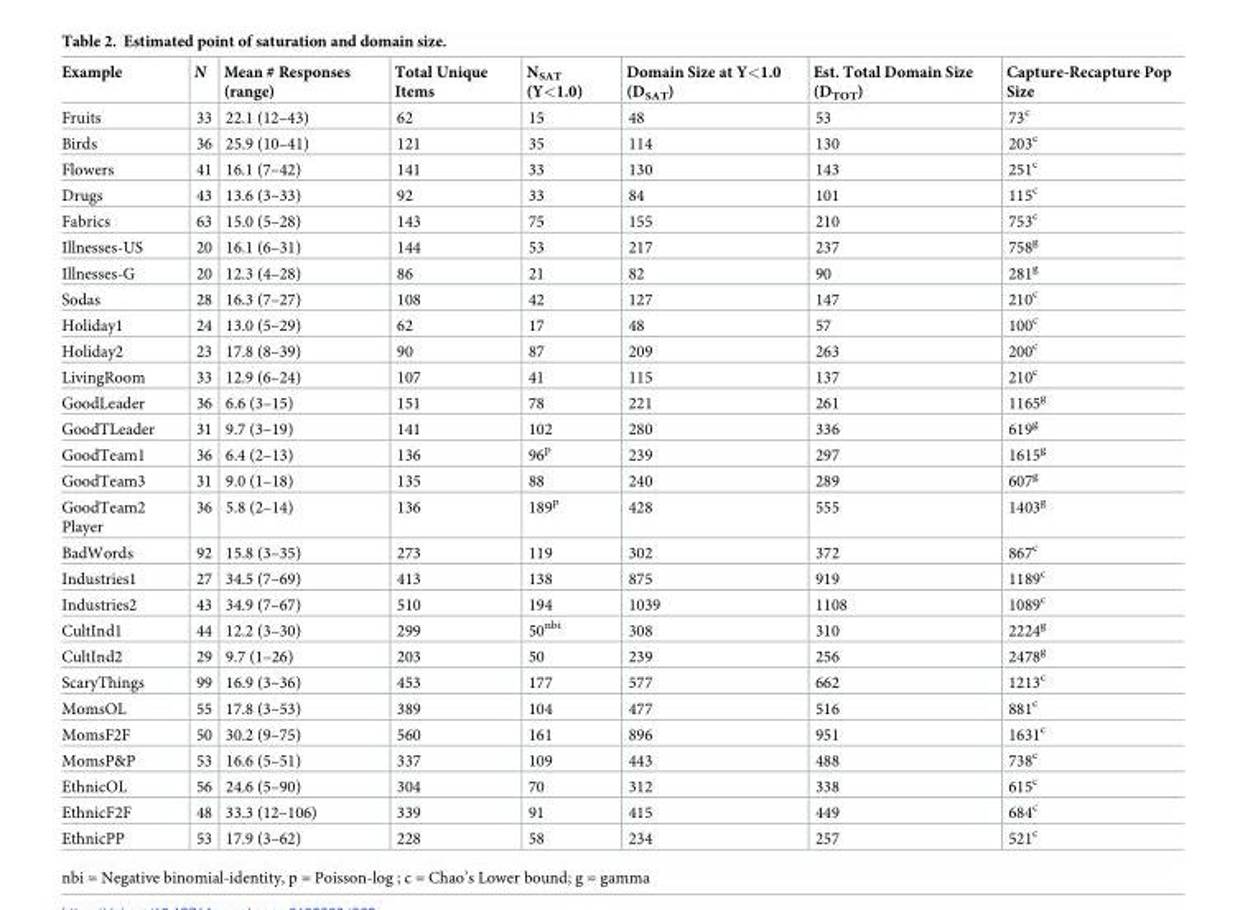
<table><thead><tr><td>Example</td><td>N</td><td>Mean # Responses (range)</td><td>Total Unique Items</td><td>N<sub>SAT</sub> (Y&lt;1.0)</td><td>Domain Size at Y&lt;1.0 (D<sub>SAT</sub>)</td><td>Est. Total Domain Size (D<sub>TOT</sub>)</td><td>Capture-Recapture Pop Size</td></tr></thead><tbody><tr><td>Fruits</td><td>33</td><td>22.1 (12–43)</td><td>62</td><td>15</td><td>48</td><td>53</td><td>73<sup>c</sup></td></tr><tr><td>Birds</td><td>36</td><td>25.9 (10–41)</td><td>121</td><td>35</td><td>114</td><td>130</td><td>203<sup>c</sup></td></tr><tr><td>Flowers</td><td>41</td><td>16.1 (7–42)</td><td>141</td><td>33</td><td>130</td><td>143</td><td>251<sup>c</sup></td></tr><tr><td>Drugs</td><td>43</td><td>13.6 (3–33)</td><td>92</td><td>33</td><td>84</td><td>101</td><td>115<sup>c</sup></td></tr><tr><td>Fabrics</td><td>63</td><td>15.0 (5–28)</td><td>143</td><td>75</td><td>155</td><td>210</td><td>753<sup>c</sup></td></tr><tr><td>Illnesses-US</td><td>20</td><td>16.1 (6–31)</td><td>144</td><td>53</td><td>217</td><td>237</td><td>758<sup>g</sup></td></tr><tr><td>Illnesses-G</td><td>20</td><td>12.3 (4–28)</td><td>86</td><td>21</td><td>82</td><td>90</td><td>281<sup>g</sup></td></tr><tr><td>Sodas</td><td>28</td><td>16.3 (7–27)</td><td>108</td><td>42</td><td>127</td><td>147</td><td>210<sup>c</sup></td></tr><tr><td>Holiday1</td><td>24</td><td>13.0 (5–29)</td><td>62</td><td>17</td><td>48</td><td>57</td><td>100<sup>c</sup></td></tr><tr><td>Holiday2</td><td>23</td><td>17.8 (8–39)</td><td>90</td><td>87</td><td>209</td><td>263</td><td>200<sup>c</sup></td></tr><tr><td>LivingRoom</td><td>33</td><td>12.9 (6–24)</td><td>107</td><td>41</td><td>115</td><td>137</td><td>210<sup>c</sup></td></tr><tr><td>GoodLeader</td><td>36</td><td>6.6 (3–15)</td><td>151</td><td>78</td><td>221</td><td>261</td><td>1165<sup>g</sup></td></tr><tr><td>GoodTLeader</td><td>31</td><td>9.7 (3–19)</td><td>141</td><td>102</td><td>280</td><td>336</td><td>619<sup>g</sup></td></tr><tr><td>GoodTeam1</td><td>36</td><td>6.4 (2–13)</td><td>136</td><td>96<sup>p</sup></td><td>239</td><td>297</td><td>1615<sup>g</sup></td></tr><tr><td>GoodTeam3</td><td>31</td><td>9.0 (1–18)</td><td>135</td><td>88</td><td>240</td><td>289</td><td>607<sup>g</sup></td></tr><tr><td>GoodTeam2 Player</td><td>36</td><td>5.8 (2–14)</td><td>136</td><td>189<sup>p</sup></td><td>428</td><td>555</td><td>1403<sup>g</sup></td></tr><tr><td>BadWords</td><td>92</td><td>15.8 (3–35)</td><td>273</td><td>119</td><td>302</td><td>372</td><td>867<sup>c</sup></td></tr><tr><td>Industries1</td><td>27</td><td>34.5 (7–69)</td><td>413</td><td>138</td><td>875</td><td>919</td><td>1189<sup>c</sup></td></tr><tr><td>Industries2</td><td>43</td><td>34.9 (7–67)</td><td>510</td><td>194</td><td>1039</td><td>1108</td><td>1089<sup>c</sup></td></tr><tr><td>CultInd1</td><td>44</td><td>12.2 (3–30)</td><td>299</td><td>50<sup>nbi</sup></td><td>308</td><td>310</td><td>2224<sup>g</sup></td></tr><tr><td>CultInd2</td><td>29</td><td>9.7 (1–26)</td><td>203</td><td>50</td><td>239</td><td>256</td><td>2478<sup>g</sup></td></tr><tr><td>ScaryThings</td><td>99</td><td>16.9 (3–36)</td><td>453</td><td>177</td><td>577</td><td>662</td><td>1213<sup>c</sup></td></tr><tr><td>MomsOL</td><td>55</td><td>17.8 (3–53)</td><td>389</td><td>104</td><td>477</td><td>516</td><td>881<sup>c</sup></td></tr><tr><td>MomsF2F</td><td>50</td><td>30.2 (9–75)</td><td>560</td><td>161</td><td>896</td><td>951</td><td>1631<sup>c</sup></td></tr><tr><td>MomsP&amp;P</td><td>53</td><td>16.6 (5–51)</td><td>337</td><td>109</td><td>443</td><td>488</td><td>738<sup>c</sup></td></tr><tr><td>EthnicOL</td><td>56</td><td>24.6 (5–90)</td><td>304</td><td>70</td><td>312</td><td>338</td><td>615<sup>c</sup></td></tr><tr><td>EthnicF2F</td><td>48</td><td>33.3 (12–106)</td><td>339</td><td>91</td><td>415</td><td>449</td><td>684<sup>c</sup></td></tr><tr><td>EthnicPP</td><td>53</td><td>17.9 (3–62)</td><td>228</td><td>58</td><td>234</td><td>257</td><td>521<sup>c</sup></td></tr></tbody></table>